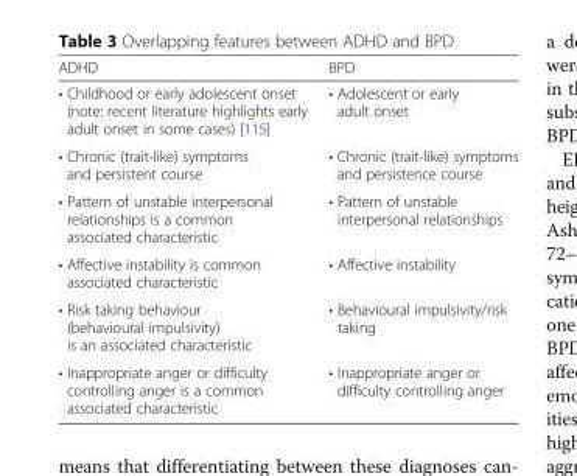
<table><thead><tr><td>ADHD</td><td>BPD</td></tr></thead><tbody><tr><td>• Childhood or early adolescent onset (note: recent literature highlights early adult onset in some cases) [115]</td><td>• Adolescent or early adult onset</td></tr><tr><td>• Chronic (trait-like) symptoms and persistent course</td><td>• Chronic (trait-like) symptoms and persistence course</td></tr><tr><td>• Pattern of unstable interpersonal relationships is a common associated characteristic</td><td>• Pattern of unstable interpersonal relationships</td></tr><tr><td>• Affective instability is common associated characteristic</td><td>• Affective instability</td></tr><tr><td>• Risk taking behaviour (behavioural impulsivity) is an associated characteristic</td><td>• Behavioural impulsivity/risk taking</td></tr><tr><td>• Inappropriate anger or difficulty controlling anger is a common associated characteristic</td><td>• Inappropriate anger or difficulty controlling anger</td></tr></tbody></table>